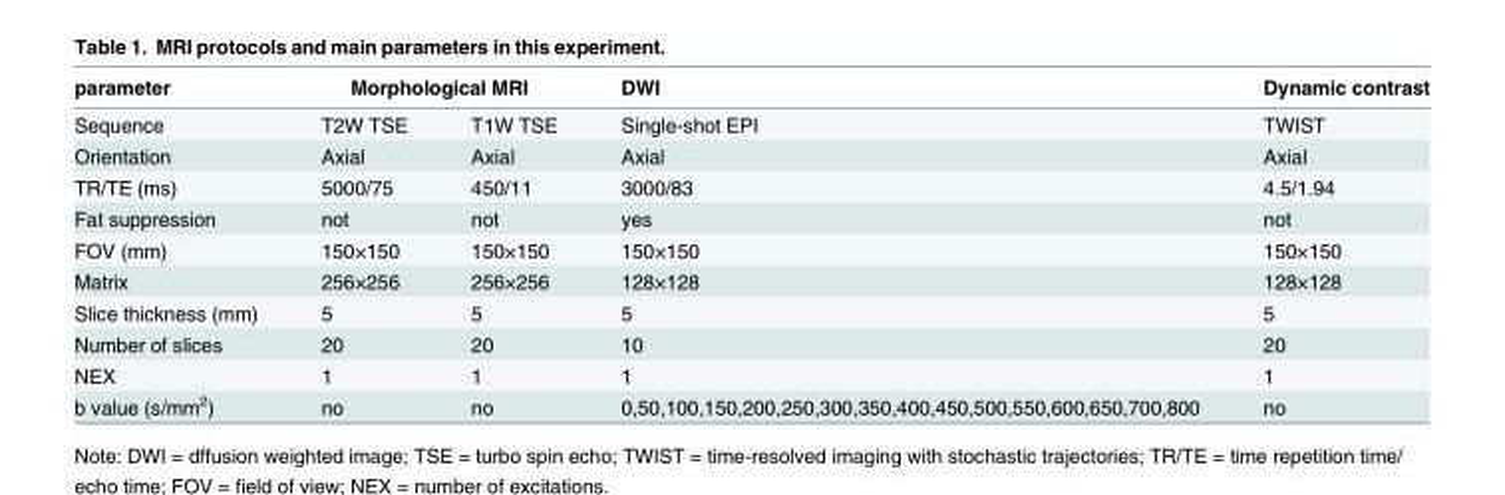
<table><thead><tr><td rowspan="2">parameter Sequence</td><td colspan="2">Morphological MRI</td><td rowspan="2">DWI Single-shot EPI</td><td rowspan="2">Dynamic contrast TWIST</td></tr><tr><td>T2W TSE</td><td>T1W TSE</td></tr></thead><tbody><tr><td>Orientation</td><td>Axial</td><td>Axial</td><td>Axial</td><td>Axial</td></tr><tr><td>TR/TE (ms)</td><td>5000/75</td><td>450/11</td><td>3000/83</td><td>4.5/1.94</td></tr><tr><td>Fat suppression</td><td>not</td><td>not</td><td>yes</td><td>not</td></tr><tr><td>FOV (mm)</td><td>150×150</td><td>150×150</td><td>150×150</td><td>150×150</td></tr><tr><td>Matrix</td><td>256×256</td><td>256×256</td><td>128×128</td><td>128×128</td></tr><tr><td>Slice thickness (mm)</td><td>5</td><td>5</td><td>5</td><td>5</td></tr><tr><td>Number of slices</td><td>20</td><td>20</td><td>10</td><td>20</td></tr><tr><td>NEX</td><td>1</td><td>1</td><td>1</td><td>1</td></tr><tr><td>b value (s/mm<sup>2</sup>)</td><td>no</td><td>no</td><td>0,50,100,150,200,250,300,350,400,450,500,550,600,650,700,800</td><td>no</td></tr></tbody></table>